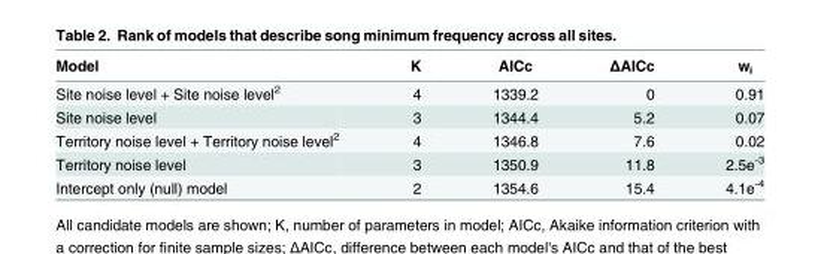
<table><thead><tr><td>Model</td><td>K</td><td>AICc</td><td>ΔAICc</td><td>w<sub>i</sub></td></tr></thead><tbody><tr><td>Site noise level + Site noise level<sup>2</sup></td><td>4</td><td>1339.2</td><td>0</td><td>0.91</td></tr><tr><td>Site noise level</td><td>3</td><td>1344.4</td><td>5.2</td><td>0.07</td></tr><tr><td>Territory noise level + Territory noise level<sup>2</sup></td><td>4</td><td>1346.8</td><td>7.6</td><td>0.02</td></tr><tr><td>Territory noise level</td><td>3</td><td>1350.9</td><td>11.8</td><td>2.5e<sup>-3</sup></td></tr><tr><td>Intercept only (null) model</td><td>2</td><td>1354.6</td><td>15.4</td><td>4.1e<sup>-4</sup></td></tr></tbody></table>